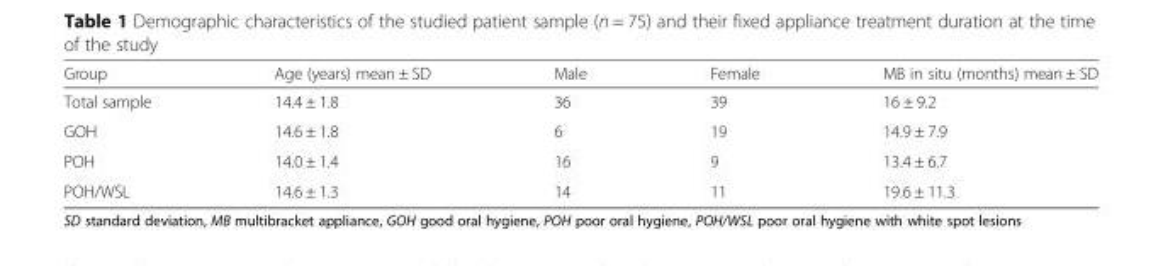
<table><thead><tr><td>Group</td><td>Age (years) mean ± SD</td><td>Male</td><td>Female</td><td>MB in situ (months) mean ± SD</td></tr></thead><tbody><tr><td>Total sample</td><td>14.4 ± 1.8</td><td>36</td><td>39</td><td>16 ± 9.2</td></tr><tr><td>GOH</td><td>14.6 ± 1.8</td><td>6</td><td>19</td><td>14.9 ± 7.9</td></tr><tr><td>POH</td><td>14.0 ± 1.4</td><td>16</td><td>9</td><td>13.4 ± 6.7</td></tr><tr><td>POH/WSL</td><td>14.6 ± 1.3</td><td>14</td><td>11</td><td>19.6 ± 11.3</td></tr></tbody></table>